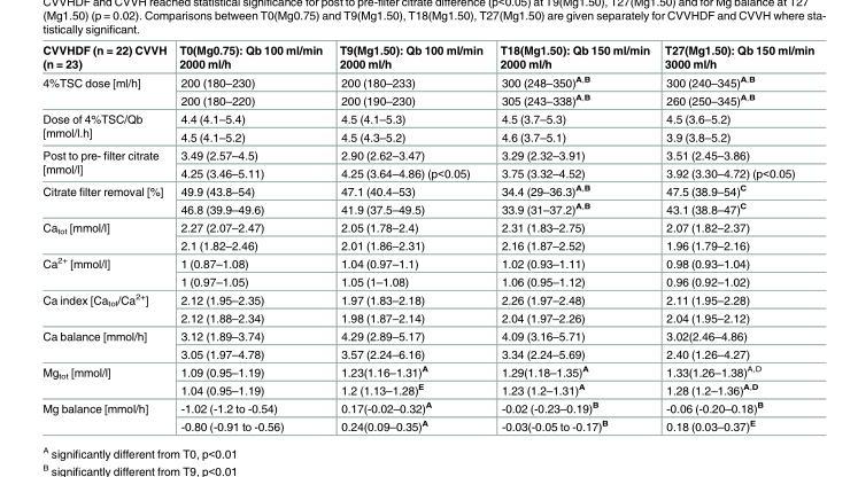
<table><thead><tr><td>CVVHDF (n = 22) CVVH (n = 23)</td><td>T0(Mg0.75): Qb 100 ml/min 2000 ml/h</td><td>T9(Mg1.50): Qb 100 ml/min 2000 ml/h</td><td>T18(Mg1.50): Qb 150 ml/min 2000 ml/h</td><td>T27(Mg1.50): Qb 150 ml/min 3000 ml/h</td></tr></thead><tbody><tr><td rowspan="2">4%TSC dose [ml/h]</td><td>200 (180–230)</td><td>200 (180–233)</td><td>300 (248–350)<sup>A,B</sup></td><td>300 (240–345)<sup>A,B</sup></td></tr><tr><td>200 (180–220)</td><td>200 (190–230)</td><td>305 (243–338)<sup>A,B</sup></td><td>260 (250–345)<sup>A,B</sup></td></tr><tr><td rowspan="2">Dose of 4%TSC/Qb [mmol/l.h]</td><td>4.4 (4.1–5.4)</td><td>4.5 (4.1–5.3)</td><td>4.5 (3.7–5.3)</td><td>4.5 (3.6–5.2)</td></tr><tr><td>4.5 (4.1–5.2)</td><td>4.5 (4.3–5.2)</td><td>4.6 (3.7–5.1)</td><td>3.9 (3.8–5.2)</td></tr><tr><td rowspan="2">Post to pre- filter citrate [mmol/l]</td><td>3.49 (2.57–4.5)</td><td>2.90 (2.62–3.47)</td><td>3.29 (2.32–3.91)</td><td>3.51 (2.45–3.86)</td></tr><tr><td>4.25 (3.46–5.11)</td><td>4.25 (3.64–4.86) (p&lt;0.05)</td><td>3.75 (3.32–4.52)</td><td>3.92 (3.30–4.72) (p&lt;0.05)</td></tr><tr><td rowspan="2">Citrate filter removal [%]</td><td>49.9 (43.8–54)</td><td>47.1 (40.4–53)</td><td>34.4 (29–36.3)<sup>A,B</sup></td><td>47.5 (38.9–54)<sup>C</sup></td></tr><tr><td>46.8 (39.9–49.6)</td><td>41.9 (37.5–49.5)</td><td>33.9 (31–37.2)<sup>A,B</sup></td><td>43.1 (38.8–47)<sup>C</sup></td></tr><tr><td rowspan="2">Ca<sub>tot</sub> [mmol/l]</td><td>2.27 (2.07–2.47)</td><td>2.05 (1.78–2.4)</td><td>2.31 (1.83–2.75)</td><td>2.07 (1.82–2.37)</td></tr><tr><td>2.1 (1.82–2.46)</td><td>2.01 (1.86–2.31)</td><td>2.16 (1.87–2.52)</td><td>1.96 (1.79–2.16)</td></tr><tr><td rowspan="2">Ca<sup>2+</sup> [mmol/l]</td><td>1 (0.87–1.08)</td><td>1.04 (0.97–1.1)</td><td>1.02 (0.93–1.11)</td><td>0.98 (0.93–1.04)</td></tr><tr><td>1 (0.97–1.05)</td><td>1.05 (1–1.08)</td><td>1.06 (0.95–1.12)</td><td>0.96 (0.92–1.02)</td></tr><tr><td rowspan="2">Ca index [Ca<sub>tot</sub>/Ca<sup>2+</sup>]</td><td>2.12 (1.95–2.35)</td><td>1.97 (1.83–2.18)</td><td>2.26 (1.97–2.48)</td><td>2.11 (1.95–2.28)</td></tr><tr><td>2.12 (1.88–2.34)</td><td>1.98 (1.87–2.14)</td><td>2.04 (1.97–2.26)</td><td>2.04 (1.95–2.12)</td></tr><tr><td rowspan="2">Ca balance [mmol/h]</td><td>3.12 (1.89–3.74)</td><td>4.29 (2.89–5.17)</td><td>4.09 (3.16–5.71)</td><td>3.02(2.46–4.86)</td></tr><tr><td>3.05 (1.97–4.78)</td><td>3.57 (2.24–6.16)</td><td>3.34 (2.24–5.69)</td><td>2.40 (1.26–4.27)</td></tr><tr><td rowspan="2">Mg<sub>tot</sub> [mmol/l]</td><td>1.09 (0.95–1.19)</td><td>1.23(1.16–1.31)<sup>A</sup></td><td>1.29(1.18–1.35)<sup>A</sup></td><td>1.33(1.26–1.38)<sup>A,D</sup></td></tr><tr><td>1.04 (0.95–1.19)</td><td>1.2 (1.13–1.28)<sup>E</sup></td><td>1.23 (1.2–1.31)<sup>A</sup></td><td>1.28 (1.2–1.36)<sup>A,D</sup></td></tr><tr><td rowspan="2">Mg balance [mmol/h]</td><td>-1.02 (-1.2 to -0.54)</td><td>0.17(-0.02–0.32)<sup>A</sup></td><td>-0.02 (-0.23–0.19)<sup>B</sup></td><td>-0.06 (-0.20–0.18)<sup>B</sup></td></tr><tr><td>-0.80 (-0.91 to -0.56)</td><td>0.24(0.09–0.35)<sup>A</sup></td><td>-0.03(-0.05 to -0.17)<sup>B</sup></td><td>0.18 (0.03–0.37)<sup>E</sup></td></tr></tbody></table>